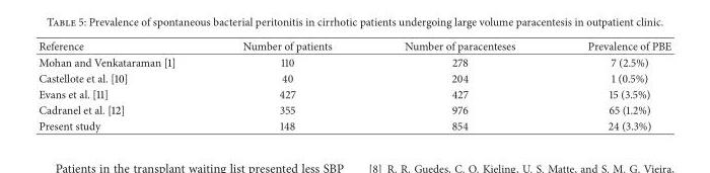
<table><thead><tr><td>Reference</td><td>Number of patients</td><td>Number of paracenteses</td><td>Prevalence of PBE</td></tr></thead><tbody><tr><td>Mohan and Venkataraman [1]</td><td>110</td><td>278</td><td>7 (2.5%)</td></tr><tr><td>Castellote et al. [10]</td><td>40</td><td>204</td><td>1 (0.5%)</td></tr><tr><td>Evans et al. [11]</td><td>427</td><td>427</td><td>15 (3.5%)</td></tr><tr><td>Cadranel et al. [12]</td><td>355</td><td>976</td><td>65 (1.2%)</td></tr><tr><td>Present study</td><td>148</td><td>854</td><td>24 (3.3%)</td></tr></tbody></table>